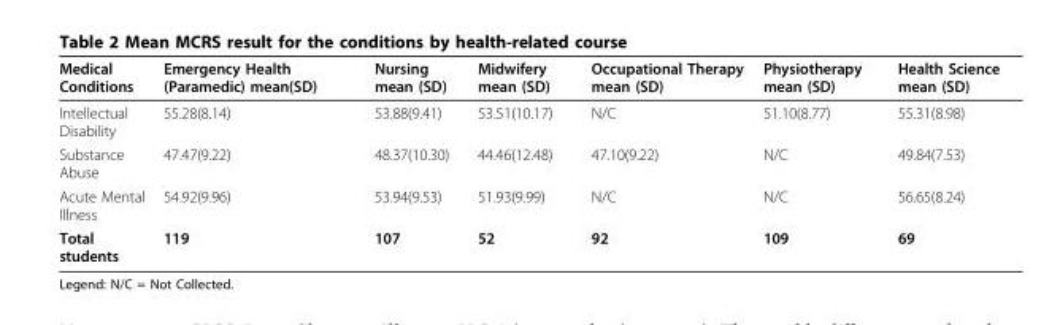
<table><thead><tr><td>Medical Conditions</td><td>Emergency Health (Paramedic) mean(SD)</td><td>Nursing mean (SD)</td><td>Midwifery mean (SD)</td><td>Occupational Therapy mean (SD)</td><td>Physiotherapy mean (SD)</td><td>Health Science mean (SD)</td></tr></thead><tbody><tr><td>Intellectual Disability</td><td>55.28(8.14)</td><td>53.88(9.41)</td><td>53.51(10.17)</td><td>N/C</td><td>51.10(8.77)</td><td>55.31(8.98)</td></tr><tr><td>Substance Abuse</td><td>47.47(9.22)</td><td>48.37(10.30)</td><td>44.46(12.48)</td><td>47.10(9.22)</td><td>N/C</td><td>49.84(7.53)</td></tr><tr><td>Acute Mental Illness</td><td>54.92(9.96)</td><td>53.94(9.53)</td><td>51.93(9.99)</td><td>N/C</td><td>N/C</td><td>56.65(8.24)</td></tr><tr><td>Total students</td><td>119</td><td>107</td><td>52</td><td>92</td><td>109</td><td>69</td></tr></tbody></table>